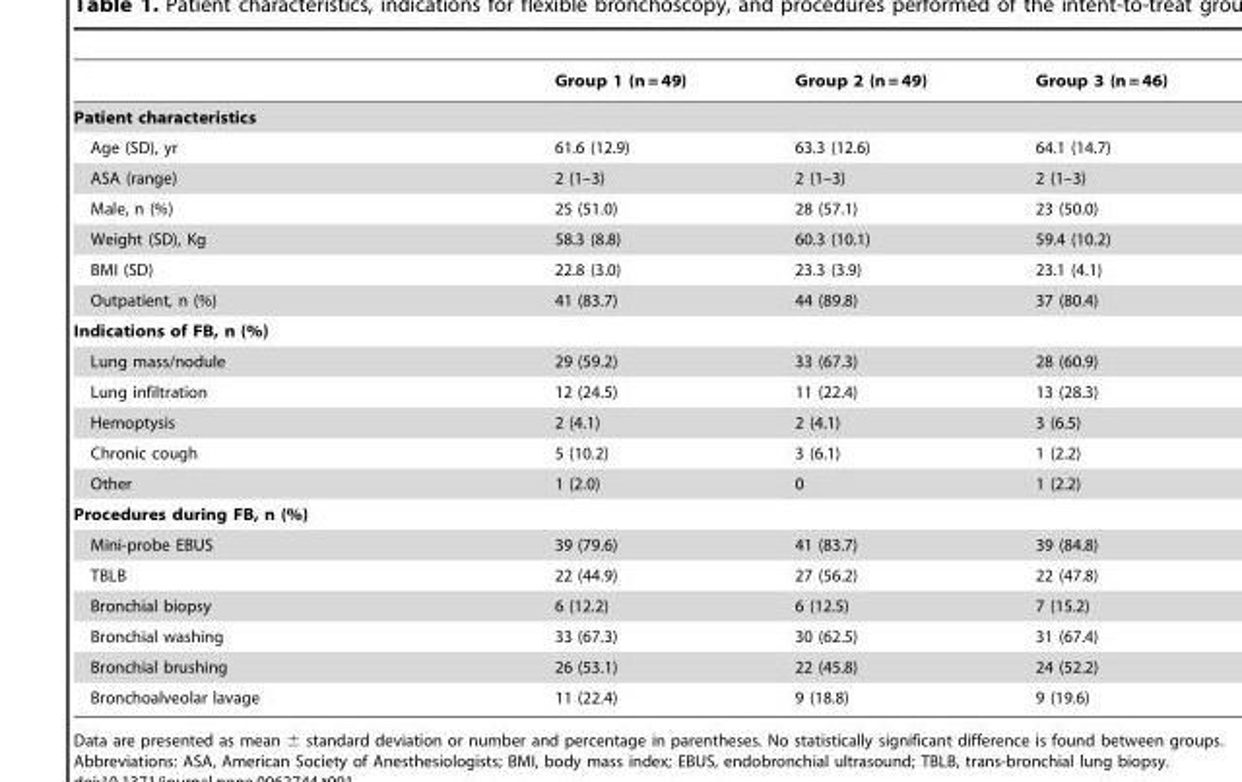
<table><thead><tr><td></td><td>Group 1 (n = 49)</td><td>Group 2 (n = 49)</td><td>Group 3 (n = 46)</td></tr></thead><tbody><tr><td colspan="4">Patient characteristics</td></tr><tr><td>Age (SD), yr</td><td>61.6 (12.9)</td><td>63.3 (12.6)</td><td>64.1 (14.7)</td></tr><tr><td>ASA (range)</td><td>2 (1–3)</td><td>2 (1–3)</td><td>2 (1–3)</td></tr><tr><td>Male, n (%)</td><td>25 (51.0)</td><td>28 (57.1)</td><td>23 (50.0)</td></tr><tr><td>Weight (SD), Kg</td><td>58.3 (8.8)</td><td>60.3 (10.1)</td><td>59.4 (10.2)</td></tr><tr><td>BMI (SD)</td><td>22.8 (3.0)</td><td>23.3 (3.9)</td><td>23.1 (4.1)</td></tr><tr><td>Outpatient, n (%)</td><td>41 (83.7)</td><td>44 (89.8)</td><td>37 (80.4)</td></tr><tr><td colspan="4">Indications of FB, n (%)</td></tr><tr><td>Lung mass/nodule</td><td>29 (59.2)</td><td>33 (67.3)</td><td>28 (60.9)</td></tr><tr><td>Lung infiltration</td><td>12 (24.5)</td><td>11 (22.4)</td><td>13 (28.3)</td></tr><tr><td>Hemoptysis</td><td>2 (4.1)</td><td>2 (4.1)</td><td>3 (6.5)</td></tr><tr><td>Chronic cough</td><td>5 (10.2)</td><td>3 (6.1)</td><td>1 (2.2)</td></tr><tr><td>Other</td><td>1 (2.0)</td><td>0</td><td>1 (2.2)</td></tr><tr><td colspan="4">Procedures during FB, n (%)</td></tr><tr><td>Mini-probe EBUS</td><td>39 (79.6)</td><td>41 (83.7)</td><td>39 (84.8)</td></tr><tr><td>TBLB</td><td>22 (44.9)</td><td>27 (56.2)</td><td>22 (47.8)</td></tr><tr><td>Bronchial biopsy</td><td>6 (12.2)</td><td>6 (12.5)</td><td>7 (15.2)</td></tr><tr><td>Bronchial washing</td><td>33 (67.3)</td><td>30 (62.5)</td><td>31 (67.4)</td></tr><tr><td>Bronchial brushing</td><td>26 (53.1)</td><td>22 (45.8)</td><td>24 (52.2)</td></tr><tr><td>Bronchoalveolar lavage</td><td>11 (22.4)</td><td>9 (18.8)</td><td>9 (19.6)</td></tr></tbody></table>